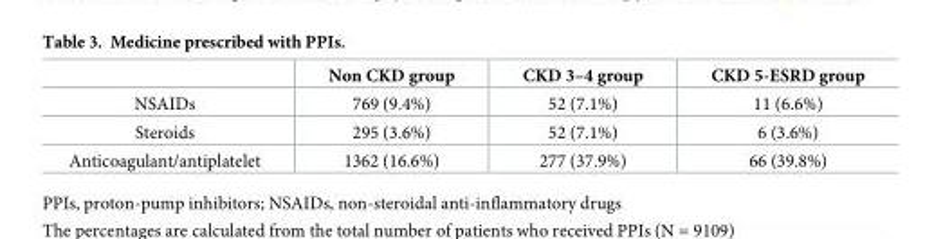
<table><thead><tr><td></td><td>Non CKD group</td><td>CKD 3–4 group</td><td>CKD 5-ESRD group</td></tr></thead><tbody><tr><td>NSAIDs</td><td>769 (9.4%)</td><td>52 (7.1%)</td><td>11 (6.6%)</td></tr><tr><td>Steroids</td><td>295 (3.6%)</td><td>52 (7.1%)</td><td>6 (3.6%)</td></tr><tr><td>Anticoagulant/antiplatelet</td><td>1362 (16.6%)</td><td>277 (37.9%)</td><td>66 (39.8%)</td></tr></tbody></table>